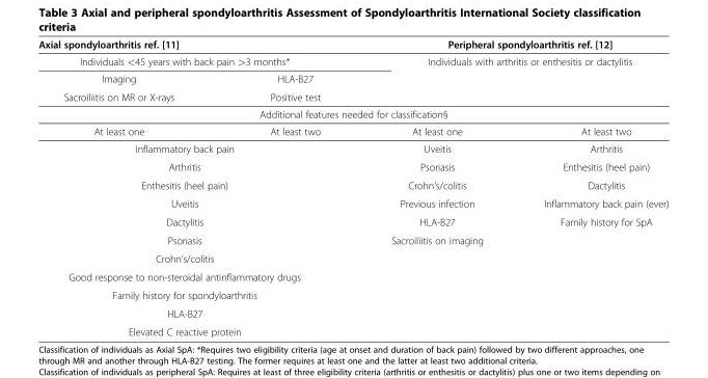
<table><thead><tr><td>Axial spondyloarthritis ref. [11]</td><td></td><td colspan="2">Peripheral spondyloarthritis ref. [12]</td></tr></thead><tbody><tr><td colspan="2">Individuals &lt;45 years with back pain &gt;3 months*</td><td rowspan="3" colspan="2">Individuals with arthritis or enthesitis or dactylitis</td></tr><tr><td>Imaging</td><td>HLA-B27</td></tr><tr><td>Sacroiliitis on MR or X-rays</td><td>Positive test</td></tr><tr><td colspan="4">Additional features needed for classification§</td></tr><tr><td>At least one</td><td>At least two</td><td>At least one</td><td>At least two</td></tr><tr><td colspan="2">Inflammatory back pain</td><td>Uveitis</td><td>Arthritis</td></tr><tr><td colspan="2">Arthritis</td><td>Psoriasis</td><td>Enthesitis (heel pain)</td></tr><tr><td colspan="2">Enthesitis (heel pain)</td><td>Crohn’s/colitis</td><td>Dactylitis</td></tr><tr><td colspan="2">Uveitis</td><td>Previous infection</td><td>Inflammatory back pain (ever)</td></tr><tr><td colspan="2">Dactylitis</td><td>HLA-B27</td><td>Family history for SpA</td></tr><tr><td colspan="2">Psoriasis</td><td>Sacroiliitis on imaging</td><td></td></tr><tr><td colspan="4">Crohn’s/colitis</td></tr><tr><td colspan="4">Good response to non-steroidal antinflammatory drugs</td></tr><tr><td colspan="4">Family history for spondyloarthritis</td></tr><tr><td colspan="4">HLA-B27</td></tr><tr><td colspan="2">Elevated C reactive protein</td><td></td><td></td></tr></tbody></table>